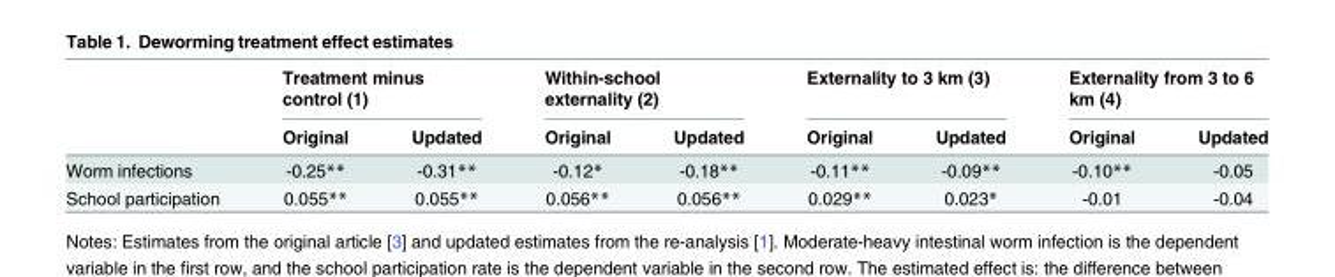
<table><thead><tr><td rowspan="2"></td><td colspan="2">Treatment minus control (1)</td><td colspan="2">Within-school externality (2)</td><td colspan="2">Externality to 3 km (3)</td><td colspan="2">Externality from 3 to 6 km (4)</td></tr><tr><td>Original</td><td>Updated</td><td>Original</td><td>Updated</td><td>Original</td><td>Updated</td><td>Original</td><td>Updated</td></tr></thead><tbody><tr><td>Worm infections</td><td>-0.25**</td><td>-0.31**</td><td>-0.12*</td><td>-0.18**</td><td>-0.11**</td><td>-0.09**</td><td>-0.10**</td><td>-0.05</td></tr><tr><td>School participation</td><td>0.055**</td><td>0.055**</td><td>0.056**</td><td>0.056**</td><td>0.029**</td><td>0.023*</td><td>-0.01</td><td>-0.04</td></tr></tbody></table>